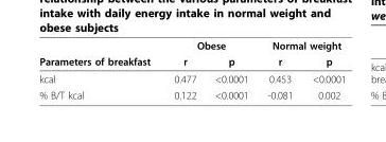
<table><thead><tr><td rowspan="2">Parameters of breakfast</td><td colspan="2">Obese</td><td colspan="2">Normal weight</td></tr><tr><td>r</td><td>p</td><td>r</td><td>p</td></tr></thead><tbody><tr><td>kcal</td><td>0.477</td><td>&lt;0.0001</td><td>0.453</td><td>&lt;0.0001</td></tr><tr><td>% B/T kcal</td><td>0.122</td><td>&lt;0.0001</td><td>-0.081</td><td>0.002</td></tr></tbody></table>